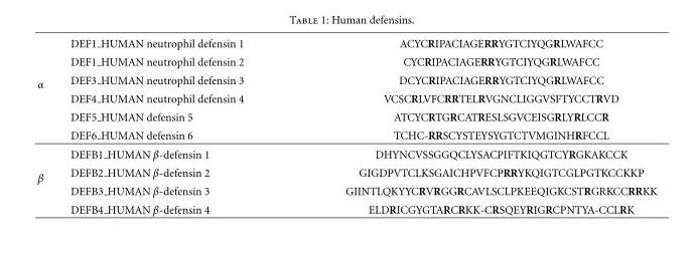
<table><tbody><tr><td rowspan="6">α</td><td>DEF1 HUMAN neutrophil defensin 1</td><td>ACYCRIPACIAGERRYGTCIYQGRLWAFCC</td></tr><tr><td>DEF1 HUMAN neutrophil defensin 2</td><td>CYCRIPACIAGERRYGTCIYQGRLWAFCC</td></tr><tr><td>DEF3 HUMAN neutrophil defensin 3</td><td>DCYCRIPACIAGERRYGTCIYQGRLWAFCC</td></tr><tr><td>DEF4 HUMAN neutrophil defensin 4</td><td>VCSCRLVFCRRTELRVGNCLIGGVSFTYCCTRVD</td></tr><tr><td>DEF5 HUMAN defensin 5</td><td>ATCYCRTGRCATRESLSGVCEISGRLYRLCCR</td></tr><tr><td>DEF6 HUMAN defensin 6</td><td>TCHC-RRSCYSTEYSYGTCTVMGINHRFCCL</td></tr><tr><td rowspan="4">β</td><td>DEFB1 HUMAN β-defensin 1</td><td>DHYNCVSSGGQCLYSACPIFTKIQGTCYRGKAKCCK</td></tr><tr><td>DEFB2 HUMAN β-defensin 2</td><td>GIGDPVTCLKSGAICHPVFCPRRYKQIGTCGLPGTKCCKKP</td></tr><tr><td>DEFB3 HUMAN β-defensin 3</td><td>GIINTLQKYYCRVRGGRCAVLSCLPKEEQIGKCSTRGRKCCRRKK</td></tr><tr><td>DEFB4 HUMAN β-defensin 4</td><td>ELDRICGYGTARCRKK-CRSQEYRIGRCPNTYA-CCLRK</td></tr></tbody></table>